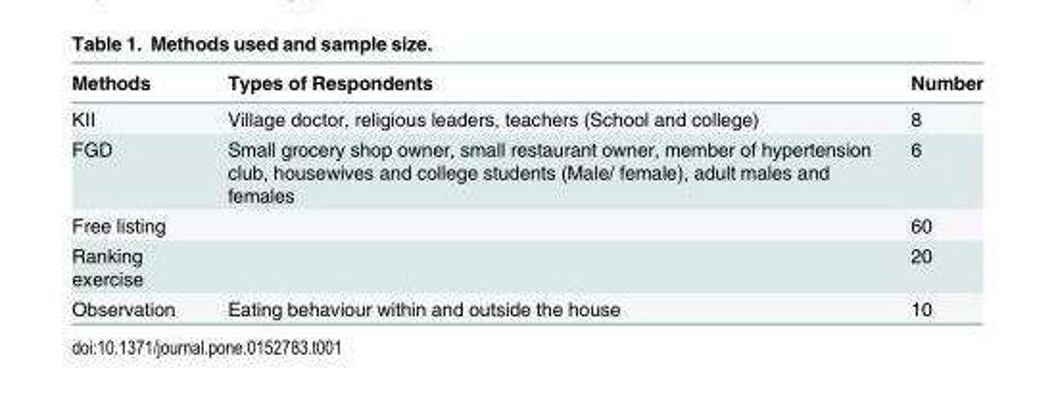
<table><thead><tr><td>Methods</td><td>Types of Respondents</td><td>Number</td></tr></thead><tbody><tr><td>KII</td><td>Village doctor, religious leaders, teachers (School and college)</td><td>8</td></tr><tr><td>FGD</td><td>Small grocery shop owner, small restaurant owner, member of hypertension club, housewives and college students (Male/ female), adult males and females</td><td>6</td></tr><tr><td>Free listing</td><td></td><td>60</td></tr><tr><td>Ranking exercise</td><td></td><td>20</td></tr><tr><td>Observation</td><td>Eating behaviour within and outside the house</td><td>10</td></tr></tbody></table>